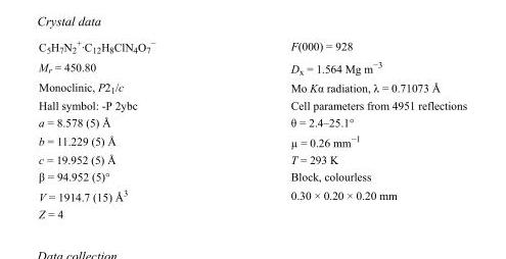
<table><tbody><tr><td>C<sub>5</sub>H<sub>7</sub>N<sub>2</sub> <sup>+</sup>·C<sub>12</sub>H<sub>8</sub>ClN<sub>4</sub>O<sub>7</sub> <sup>−</sup></td><td>F(000) = 928</td></tr><tr><td>M<sub>r</sub> = 450.80</td><td>D<sub>x</sub> = 1.564 Mg m<sup>−3</sup></td></tr><tr><td>Monoclinic, P2<sub>1</sub>/c</td><td>Mo Kα radiation, λ = 0.71073 Å</td></tr><tr><td>Hall symbol: -P 2ybc</td><td>Cell parameters from 4951 reflections</td></tr><tr><td>a = 8.578 (5) Å</td><td>θ = 2.4–25.1°</td></tr><tr><td>b = 11.229 (5) Å</td><td>µ = 0.26 mm<sup>−1</sup></td></tr><tr><td>c = 19.952 (5) Å</td><td>T = 293 K</td></tr><tr><td>β = 94.952 (5)°</td><td>Block, colourless</td></tr><tr><td>V = 1914.7 (15) Å<sup>3</sup></td><td>0.30 × 0.20 × 0.20 mm</td></tr><tr><td>Z = 4</td><td></td></tr></tbody></table>